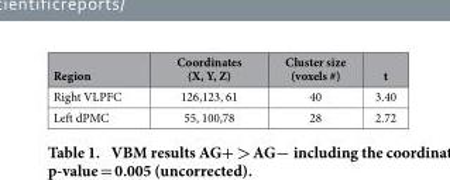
<table><thead><tr><td>Region</td><td>Coordinates (X, Y, Z)</td><td>Cluster size (voxels #)</td><td>t</td></tr></thead><tbody><tr><td>Right VLPFC</td><td>126,123, 61</td><td>40</td><td>3.40</td></tr><tr><td>Left dPMC</td><td>55, 100,78</td><td>28</td><td>2.72</td></tr></tbody></table>